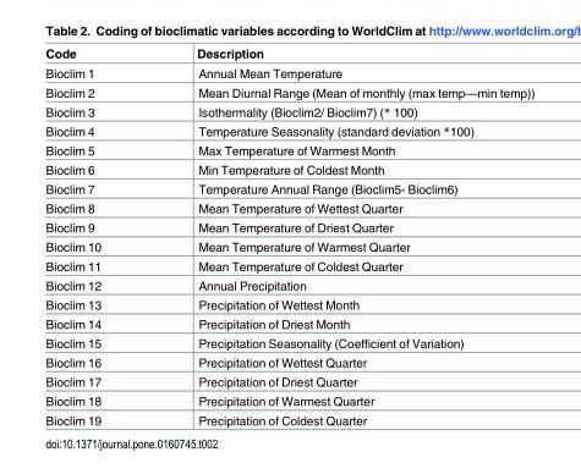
<table><thead><tr><td>Code</td><td>Description</td></tr></thead><tbody><tr><td>Bioclim 1</td><td>Annual Mean Temperature</td></tr><tr><td>Bioclim 2</td><td>Mean Diurnal Range (Mean of monthly (max temp—min temp))</td></tr><tr><td>Bioclim 3</td><td>Isothermality (Bioclim2/ Bioclim7) (* 100)</td></tr><tr><td>Bioclim 4</td><td>Temperature Seasonality (standard deviation *100)</td></tr><tr><td>Bioclim 5</td><td>Max Temperature of Warmest Month</td></tr><tr><td>Bioclim 6</td><td>Min Temperature of Coldest Month</td></tr><tr><td>Bioclim 7</td><td>Temperature Annual Range (Bioclim5- Bioclim6)</td></tr><tr><td>Bioclim 8</td><td>Mean Temperature of Wettest Quarter</td></tr><tr><td>Bioclim 9</td><td>Mean Temperature of Driest Quarter</td></tr><tr><td>Bioclim 10</td><td>Mean Temperature of Warmest Quarter</td></tr><tr><td>Bioclim 11</td><td>Mean Temperature of Coldest Quarter</td></tr><tr><td>Bioclim 12</td><td>Annual Precipitation</td></tr><tr><td>Bioclim 13</td><td>Precipitation of Wettest Month</td></tr><tr><td>Bioclim 14</td><td>Precipitation of Driest Month</td></tr><tr><td>Bioclim 15</td><td>Precipitation Seasonality (Coefficient of Variation)</td></tr><tr><td>Bioclim 16</td><td>Precipitation of Wettest Quarter</td></tr><tr><td>Bioclim 17</td><td>Precipitation of Driest Quarter</td></tr><tr><td>Bioclim 18</td><td>Precipitation of Warmest Quarter</td></tr><tr><td>Bioclim 19</td><td>Precipitation of Coldest Quarter</td></tr></tbody></table>